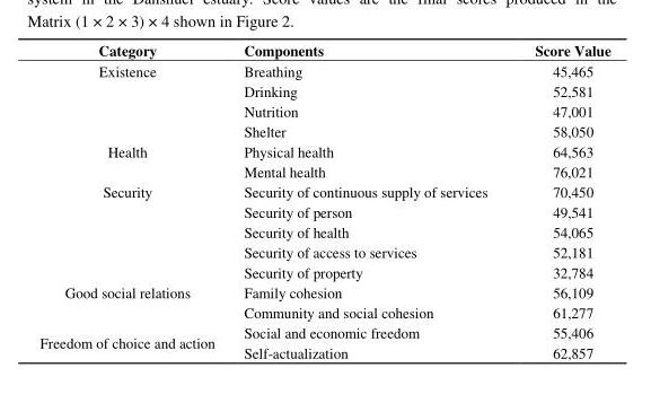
<table><thead><tr><td>Category</td><td>Components</td><td>Score Value</td></tr></thead><tbody><tr><td rowspan="4">Existence</td><td>Breathing</td><td>45,465</td></tr><tr><td>Drinking</td><td>52,581</td></tr><tr><td>Nutrition</td><td>47,001</td></tr><tr><td>Shelter</td><td>58,050</td></tr><tr><td rowspan="2">Health</td><td>Physical health</td><td>64,563</td></tr><tr><td>Mental health</td><td>76,021</td></tr><tr><td rowspan="5">Security</td><td>Security of continuous supply of services</td><td>70,450</td></tr><tr><td>Security of person</td><td>49,541</td></tr><tr><td>Security of health</td><td>54,065</td></tr><tr><td>Security of access to services</td><td>52,181</td></tr><tr><td>Security of property</td><td>32,784</td></tr><tr><td rowspan="2">Good social relations</td><td>Family cohesion</td><td>56,109</td></tr><tr><td>Community and social cohesion</td><td>61,277</td></tr><tr><td rowspan="2">Freedom of choice and action</td><td>Social and economic freedom</td><td>55,406</td></tr><tr><td>Self-actualization</td><td>62,857</td></tr></tbody></table>